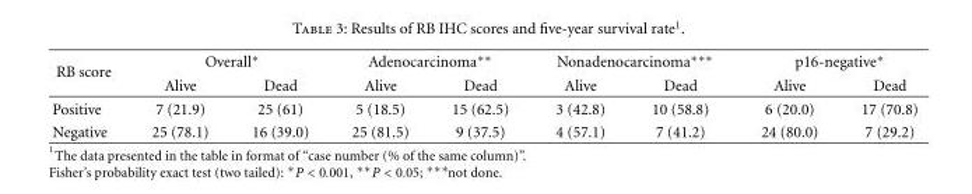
<table><thead><tr><td rowspan="2">RB score</td><td colspan="2">Overall∗</td><td colspan="2">Adenocarcinoma∗∗</td><td colspan="2">Nonadenocarcinoma∗∗∗</td><td colspan="2">p16-negative∗</td></tr><tr><td>Alive</td><td>Dead</td><td>Alive</td><td>Dead</td><td>Alive</td><td>Dead</td><td>Alive</td><td>Dead</td></tr></thead><tbody><tr><td>Positive</td><td>7 (21.9)</td><td>25 (61)</td><td>5 (18.5)</td><td>15 (62.5)</td><td>3 (42.8)</td><td>10 (58.8)</td><td>6 (20.0)</td><td>17 (70.8)</td></tr><tr><td>Negative</td><td>25 (78.1)</td><td>16 (39.0)</td><td>25 (81.5)</td><td>9 (37.5)</td><td>4 (57.1)</td><td>7 (41.2)</td><td>24 (80.0)</td><td>7 (29.2)</td></tr></tbody></table>